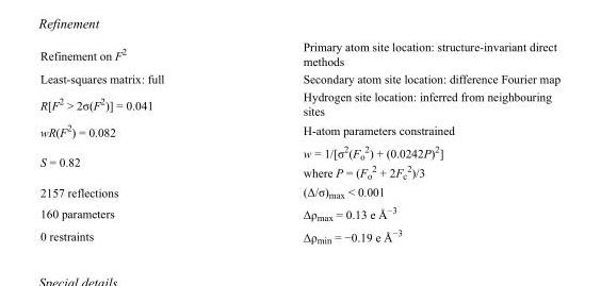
<table><tbody><tr><td>Refinement on F<sup>2</sup></td><td>Primary atom site location: structure-invariant direct methods</td></tr><tr><td>Least-squares matrix: full</td><td>Secondary atom site location: difference Fourier map</td></tr><tr><td>R[F<sup>2</sup> &gt; 2σ(F<sup>2</sup>)] = 0.041</td><td>Hydrogen site location: inferred from neighbouring sites</td></tr><tr><td>wR(F<sup>2</sup>) = 0.082</td><td>H-atom parameters constrained</td></tr><tr><td>S = 0.82</td><td>w = 1/[σ<sup>2</sup>(F<sub>o</sub> <sup>2</sup>) + (0.0242P)<sup>2</sup>] where P = (F<sub>o</sub> <sup>2</sup> + 2F<sub>c</sub> <sup>2</sup>)/3</td></tr><tr><td>2157 reflections</td><td>(Δ/σ)<sub>max</sub> &lt; 0.001</td></tr><tr><td>160 parameters</td><td>Δρ<sub>max</sub> = 0.13 e Å<sup>−3</sup></td></tr><tr><td>0 restraints</td><td>Δρ<sub>min</sub> = −0.19 e Å<sup>−3</sup></td></tr></tbody></table>